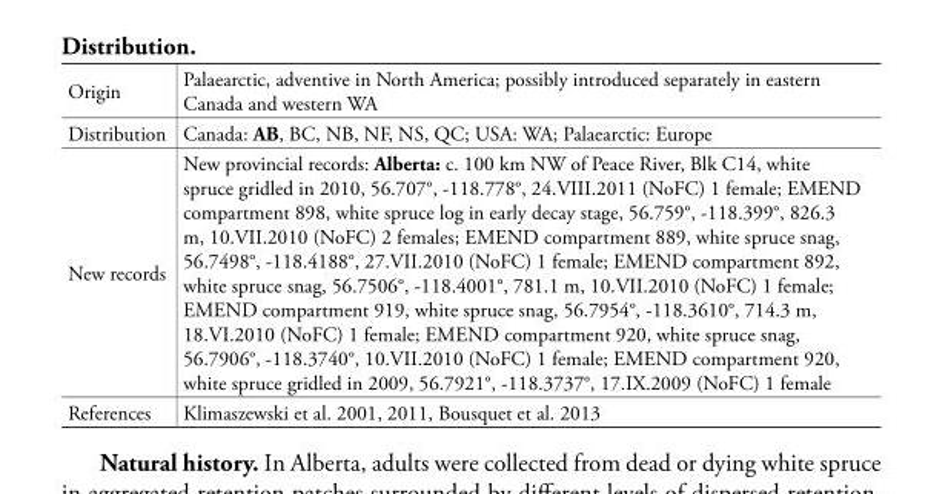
<table><tbody><tr><td>Origin</td><td>Palaearctic, adventive in North America; possibly introduced separately in eastern Canada and western WA</td></tr><tr><td>Distribution</td><td>Canada: AB, BC, NB, NF, NS, QC; USA: WA; Palaearctic: Europe</td></tr><tr><td>New records</td><td>New provincial records: Alberta: c. 100 km NW of Peace River, Blk C14, white spruce gridled in 2010, 56.707°, -118.778°, 24.VIII.2011 (NoFC) 1 female; EMEND compartment 898, white spruce log in early decay stage, 56.759°, -118.399°, 826.3 m, 10.VII.2010 (NoFC) 2 females; EMEND compartment 889, white spruce snag, 56.7498°, -118.4188°, 27.VII.2010 (NoFC) 1 female; EMEND compartment 892, white spruce snag, 56.7506°, -118.4001°, 781.1 m, 10.VII.2010 (NoFC) 1 female; EMEND compartment 919, white spruce snag, 56.7954°, -118.3610°, 714.3 m, 18.VI.2010 (NoFC) 1 female; EMEND compartment 920, white spruce snag, 56.7906°, -118.3740°, 10.VII.2010 (NoFC) 1 female; EMEND compartment 920, white spruce gridled in 2009, 56.7921°, -118.3737°, 17.IX.2009 (NoFC) 1 female</td></tr><tr><td>References</td><td>Klimaszewski et al. 2001, 2011, Bousquet et al. 2013</td></tr></tbody></table>